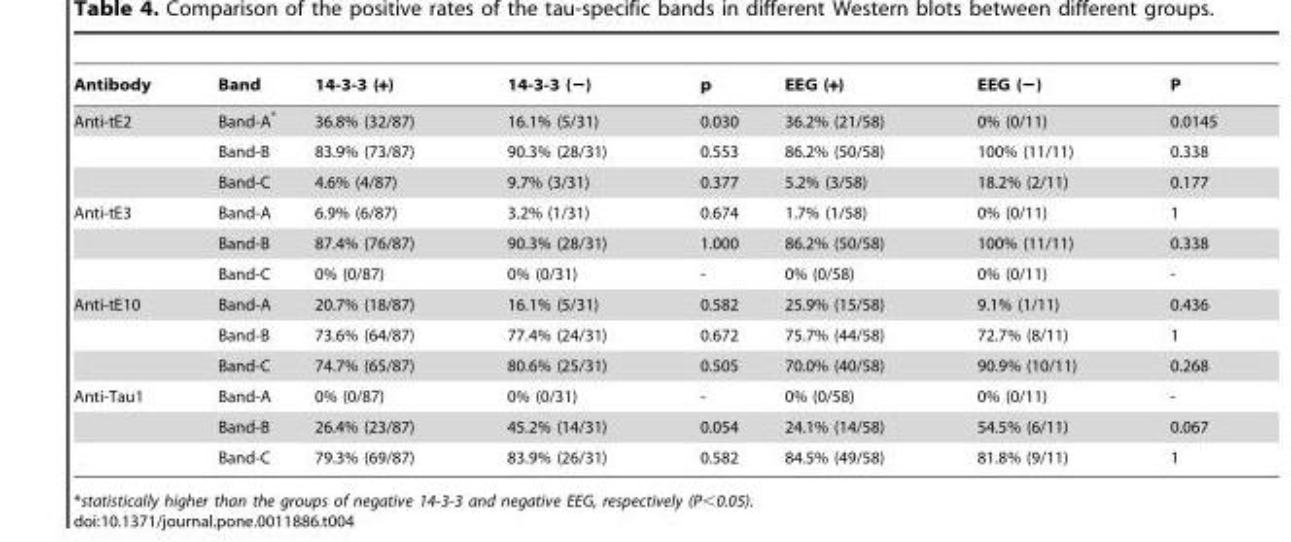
<table><thead><tr><td>Antibody</td><td>Band</td><td>14-3-3 (+)</td><td>14-3-3 (−)</td><td>p</td><td>EEG (+)</td><td>EEG (−)</td><td>P</td></tr></thead><tbody><tr><td rowspan="3">Anti-tE2</td><td>Band-A*</td><td>36.8% (32/87)</td><td>16.1% (5/31)</td><td>0.030</td><td>36.2% (21/58)</td><td>0% (0/11)</td><td>0.0145</td></tr><tr><td>Band-B</td><td>83.9% (73/87)</td><td>90.3% (28/31)</td><td>0.553</td><td>86.2% (50/58)</td><td>100% (11/11)</td><td>0.338</td></tr><tr><td>Band-C</td><td>4.6% (4/87)</td><td>9.7% (3/31)</td><td>0.377</td><td>5.2% (3/58)</td><td>18.2% (2/11)</td><td>0.177</td></tr><tr><td rowspan="3">Anti-tE3</td><td>Band-A</td><td>6.9% (6/87)</td><td>3.2% (1/31)</td><td>0.674</td><td>1.7% (1/58)</td><td>0% (0/11)</td><td>1</td></tr><tr><td>Band-B</td><td>87.4% (76/87)</td><td>90.3% (28/31)</td><td>1.000</td><td>86.2% (50/58)</td><td>100% (11/11)</td><td>0.338</td></tr><tr><td>Band-C</td><td>0% (0/87)</td><td>0% (0/31)</td><td>-</td><td>0% (0/58)</td><td>0% (0/11)</td><td>-</td></tr><tr><td rowspan="3">Anti-tE10</td><td>Band-A</td><td>20.7% (18/87)</td><td>16.1% (5/31)</td><td>0.582</td><td>25.9% (15/58)</td><td>9.1% (1/11)</td><td>0.436</td></tr><tr><td>Band-B</td><td>73.6% (64/87)</td><td>77.4% (24/31)</td><td>0.672</td><td>75.7% (44/58)</td><td>72.7% (8/11)</td><td>1</td></tr><tr><td>Band-C</td><td>74.7% (65/87)</td><td>80.6% (25/31)</td><td>0.505</td><td>70.0% (40/58)</td><td>90.9% (10/11)</td><td>0.268</td></tr><tr><td rowspan="3">Anti-Tau1</td><td>Band-A</td><td>0% (0/87)</td><td>0% (0/31)</td><td>-</td><td>0% (0/58)</td><td>0% (0/11)</td><td>-</td></tr><tr><td>Band-B</td><td>26.4% (23/87)</td><td>45.2% (14/31)</td><td>0.054</td><td>24.1% (14/58)</td><td>54.5% (6/11)</td><td>0.067</td></tr><tr><td>Band-C</td><td>79.3% (69/87)</td><td>83.9% (26/31)</td><td>0.582</td><td>84.5% (49/58)</td><td>81.8% (9/11)</td><td>1</td></tr></tbody></table>